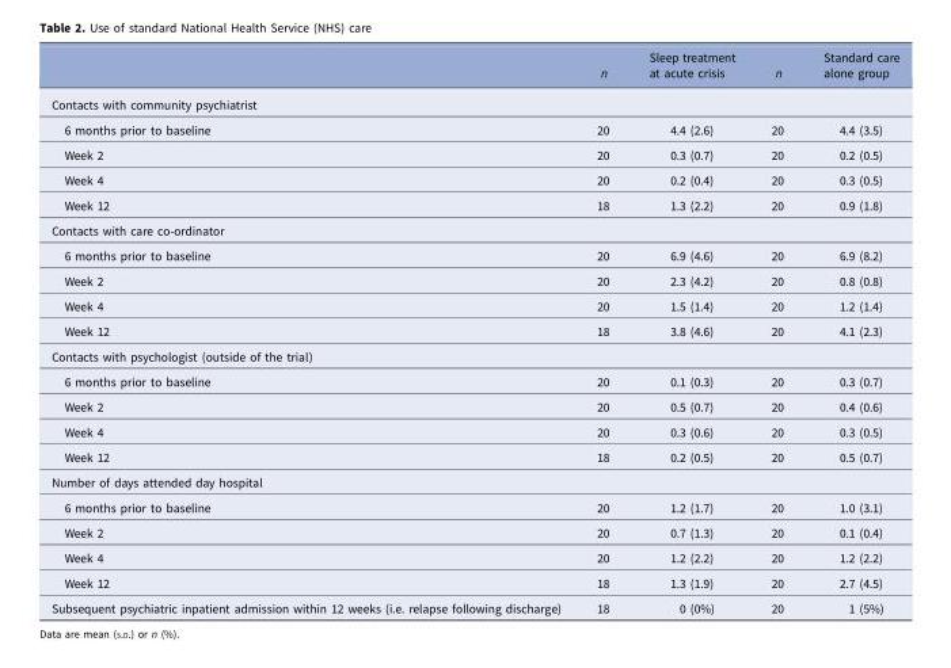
<table><thead><tr><td></td><td>n</td><td>Sleep treatment at acute crisis</td><td>n</td><td>Standard care alone group</td></tr></thead><tbody><tr><td colspan="5">Contacts with community psychiatrist</td></tr><tr><td>6 months prior to baseline</td><td>20</td><td>4.4 (2.6)</td><td>20</td><td>4.4 (3.5)</td></tr><tr><td>Week 2</td><td>20</td><td>0.3 (0.7)</td><td>20</td><td>0.2 (0.5)</td></tr><tr><td>Week 4</td><td>20</td><td>0.2 (0.4)</td><td>20</td><td>0.3 (0.5)</td></tr><tr><td>Week 12</td><td>18</td><td>1.3 (2.2)</td><td>20</td><td>0.9 (1.8)</td></tr><tr><td colspan="5">Contacts with care co-ordinator</td></tr><tr><td>6 months prior to baseline</td><td>20</td><td>6.9 (4.6)</td><td>20</td><td>6.9 (8.2)</td></tr><tr><td>Week 2</td><td>20</td><td>2.3 (4.2)</td><td>20</td><td>0.8 (0.8)</td></tr><tr><td>Week 4</td><td>20</td><td>1.5 (1.4)</td><td>20</td><td>1.2 (1.4)</td></tr><tr><td>Week 12</td><td>18</td><td>3.8 (4.6)</td><td>20</td><td>4.1 (2.3)</td></tr><tr><td colspan="5">Contacts with psychologist (outside of the trial)</td></tr><tr><td>6 months prior to baseline</td><td>20</td><td>0.1 (0.3)</td><td>20</td><td>0.3 (0.7)</td></tr><tr><td>Week 2</td><td>20</td><td>0.5 (0.7)</td><td>20</td><td>0.4 (0.6)</td></tr><tr><td>Week 4</td><td>20</td><td>0.3 (0.6)</td><td>20</td><td>0.3 (0.5)</td></tr><tr><td>Week 12</td><td>18</td><td>0.2 (0.5)</td><td>20</td><td>0.5 (0.7)</td></tr><tr><td colspan="5">Number of days attended day hospital</td></tr><tr><td>6 months prior to baseline</td><td>20</td><td>1.2 (1.7)</td><td>20</td><td>1.0 (3.1)</td></tr><tr><td>Week 2</td><td>20</td><td>0.7 (1.3)</td><td>20</td><td>0.1 (0.4)</td></tr><tr><td>Week 4</td><td>20</td><td>1.2 (2.2)</td><td>20</td><td>1.2 (2.2)</td></tr><tr><td>Week 12</td><td>18</td><td>1.3 (1.9)</td><td>20</td><td>2.7 (4.5)</td></tr><tr><td>Subsequent psychiatric inpatient admission within 12 weeks (i.e. relapse following discharge)</td><td>18</td><td>0 (0%)</td><td>20</td><td>1 (5%)</td></tr></tbody></table>